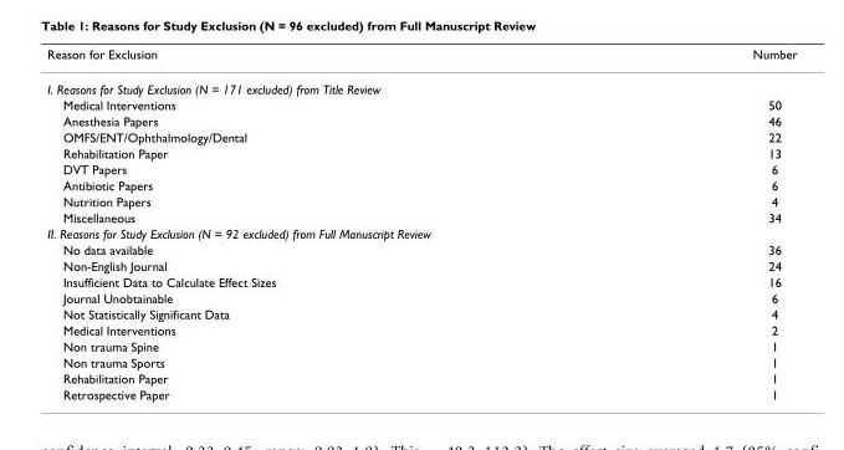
<table><thead><tr><td>Reason for Exclusion</td><td>Number</td></tr></thead><tbody><tr><td colspan="2">I. Reasons for Study Exclusion (N = 171 excluded) from Title Review</td></tr><tr><td>Medical Interventions</td><td>50</td></tr><tr><td>Anesthesia Papers</td><td>46</td></tr><tr><td>OMFS/ENT/Ophthalmology/Dental</td><td>22</td></tr><tr><td>Rehabilitation Paper</td><td>13</td></tr><tr><td>DVT Papers</td><td>6</td></tr><tr><td>Antibiotic Papers</td><td>6</td></tr><tr><td>Nutrition Papers</td><td>4</td></tr><tr><td>Miscellaneous</td><td>34</td></tr><tr><td colspan="2">II. Reasons for Study Exclusion (N = 92 excluded) from Full Manuscript Review</td></tr><tr><td>No data available</td><td>36</td></tr><tr><td>Non-English Journal</td><td>24</td></tr><tr><td>Insufficient Data to Calculate Effect Sizes</td><td>16</td></tr><tr><td>Journal Unobtainable</td><td>6</td></tr><tr><td>Not Statistically Significant Data</td><td>4</td></tr><tr><td>Medical Interventions</td><td>2</td></tr><tr><td>Non trauma Spine</td><td>1</td></tr><tr><td>Non trauma Sports</td><td>1</td></tr><tr><td>Rehabilitation Paper</td><td>1</td></tr><tr><td>Retrospective Paper</td><td>1</td></tr></tbody></table>